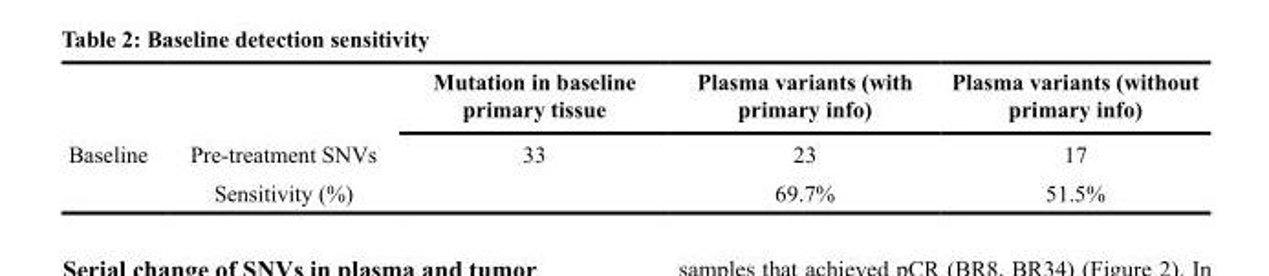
<table><thead><tr><td></td><td></td><td>Mutation in baseline primary tissue</td><td>Plasma variants (with primary info)</td><td>Plasma variants (without primary info)</td></tr></thead><tbody><tr><td rowspan="2">Baseline</td><td>Pre-treatment SNVs</td><td>33</td><td>23</td><td>17</td></tr><tr><td>Sensitivity (%)</td><td></td><td>69.7%</td><td>51.5%</td></tr></tbody></table>